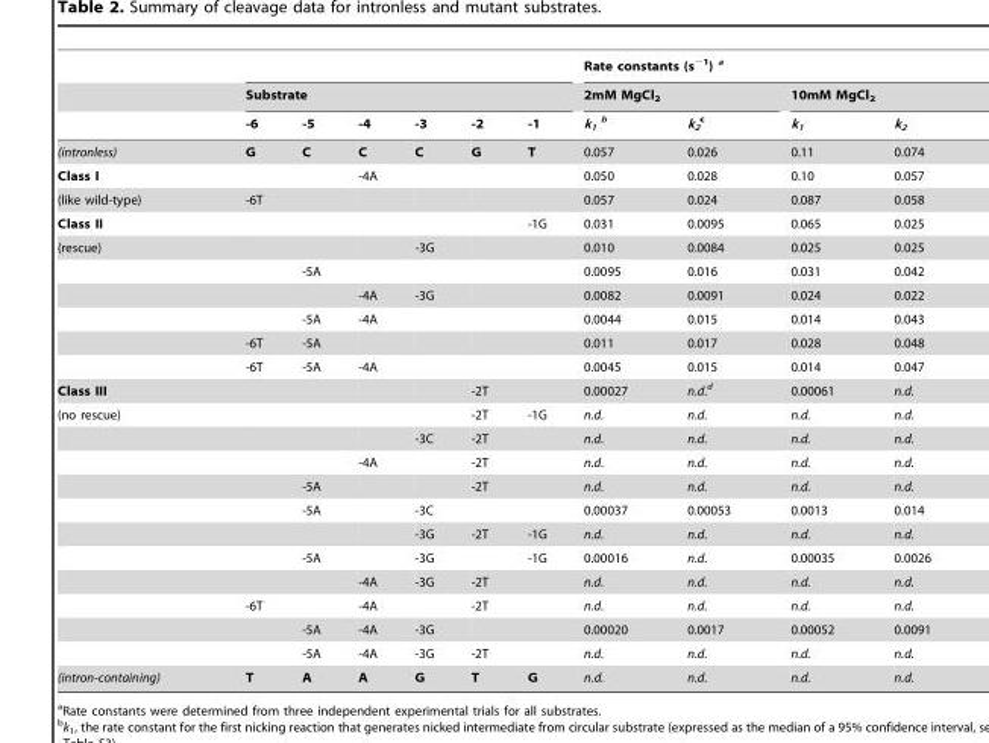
<table><thead><tr><td rowspan="3"></td><td></td><td></td><td></td><td></td><td></td><td></td><td colspan="4">Rate constants (s<sup>−1</sup>) a</td></tr><tr><td colspan="6">Substrate</td><td colspan="2">2mM MgCl<sub>2</sub></td><td colspan="2">10mM MgCl<sub>2</sub></td></tr><tr><td>-6</td><td>-5</td><td>-4</td><td>-3</td><td>-2</td><td>-1</td><td>k<sub>1</sub> b</td><td>k<sub>2</sub> c</td><td>k<sub>1</sub></td><td>k<sub>2</sub></td></tr></thead><tbody><tr><td>(intronless)</td><td>G</td><td>C</td><td>C</td><td>C</td><td>G</td><td>T</td><td>0.057</td><td>0.026</td><td>0.11</td><td>0.074</td></tr><tr><td>Class I</td><td></td><td></td><td>-4A</td><td></td><td></td><td></td><td>0.050</td><td>0.028</td><td>0.10</td><td>0.057</td></tr><tr><td>(like wild-type)</td><td>-6T</td><td></td><td></td><td></td><td></td><td></td><td>0.057</td><td>0.024</td><td>0.087</td><td>0.058</td></tr><tr><td>Class II</td><td></td><td></td><td></td><td></td><td></td><td>-1G</td><td>0.031</td><td>0.0095</td><td>0.065</td><td>0.025</td></tr><tr><td rowspan="6">(rescue)</td><td></td><td></td><td></td><td>-3G</td><td></td><td></td><td>0.010</td><td>0.0084</td><td>0.025</td><td>0.025</td></tr><tr><td></td><td>-5A</td><td></td><td></td><td></td><td></td><td>0.0095</td><td>0.016</td><td>0.031</td><td>0.042</td></tr><tr><td></td><td></td><td>-4A</td><td>-3G</td><td></td><td></td><td>0.0082</td><td>0.0091</td><td>0.024</td><td>0.022</td></tr><tr><td></td><td>-5A</td><td>-4A</td><td></td><td></td><td></td><td>0.0044</td><td>0.015</td><td>0.014</td><td>0.043</td></tr><tr><td>-6T</td><td>-5A</td><td></td><td></td><td></td><td></td><td>0.011</td><td>0.017</td><td>0.028</td><td>0.048</td></tr><tr><td>-6T</td><td>-5A</td><td>-4A</td><td></td><td></td><td></td><td>0.0045</td><td>0.015</td><td>0.014</td><td>0.047</td></tr><tr><td>Class III</td><td></td><td></td><td></td><td></td><td>-2T</td><td></td><td>0.00027</td><td>n.d.d</td><td>0.00061</td><td>n.d.</td></tr><tr><td rowspan="11">(no rescue)</td><td></td><td></td><td></td><td></td><td>-2T</td><td>-1G</td><td>n.d.</td><td>n.d.</td><td>n.d.</td><td>n.d.</td></tr><tr><td></td><td></td><td></td><td>-3C</td><td>-2T</td><td></td><td>n.d.</td><td>n.d.</td><td>n.d.</td><td>n.d.</td></tr><tr><td></td><td></td><td>-4A</td><td></td><td>-2T</td><td></td><td>n.d.</td><td>n.d.</td><td>n.d.</td><td>n.d.</td></tr><tr><td></td><td>-5A</td><td></td><td></td><td>-2T</td><td></td><td>n.d.</td><td>n.d.</td><td>n.d.</td><td>n.d.</td></tr><tr><td></td><td>-5A</td><td></td><td>-3C</td><td></td><td></td><td>0.00037</td><td>0.00053</td><td>0.0013</td><td>0.014</td></tr><tr><td></td><td></td><td></td><td>-3G</td><td>-2T</td><td>-1G</td><td>n.d.</td><td>n.d.</td><td>n.d.</td><td>n.d.</td></tr><tr><td></td><td>-5A</td><td></td><td>-3G</td><td></td><td>-1G</td><td>0.00016</td><td>n.d.</td><td>0.00035</td><td>0.0026</td></tr><tr><td></td><td></td><td>-4A</td><td>-3G</td><td>-2T</td><td></td><td>n.d.</td><td>n.d.</td><td>n.d.</td><td>n.d.</td></tr><tr><td>-6T</td><td></td><td>-4A</td><td></td><td>-2T</td><td></td><td>n.d.</td><td>n.d.</td><td>n.d.</td><td>n.d.</td></tr><tr><td></td><td>-5A</td><td>-4A</td><td>-3G</td><td></td><td></td><td>0.00020</td><td>0.0017</td><td>0.00052</td><td>0.0091</td></tr><tr><td></td><td>-5A</td><td>-4A</td><td>-3G</td><td>-2T</td><td></td><td>n.d.</td><td>n.d.</td><td>n.d.</td><td>n.d.</td></tr><tr><td>(intron-containing)</td><td>T</td><td>A</td><td>A</td><td>G</td><td>T</td><td>G</td><td>n.d.</td><td>n.d.</td><td>n.d.</td><td>n.d.</td></tr></tbody></table>